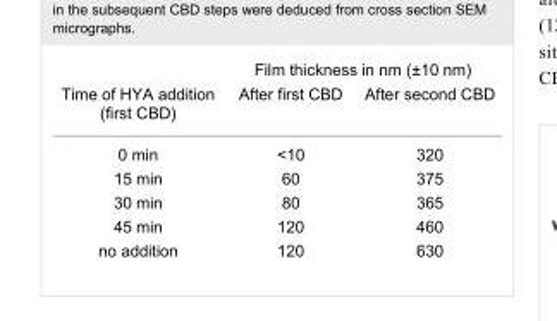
<table><thead><tr><td rowspan="2">Time of HYA addition (first CBD)</td><td colspan="2">Film thickness in nm (±10 nm)</td></tr><tr><td>After first CBD</td><td>After second CBD</td></tr></thead><tbody><tr><td>0 min</td><td>&lt;10</td><td>320</td></tr><tr><td>15 min</td><td>60</td><td>375</td></tr><tr><td>30 min</td><td>80</td><td>365</td></tr><tr><td>45 min</td><td>120</td><td>460</td></tr><tr><td>no addition</td><td>120</td><td>630</td></tr></tbody></table>